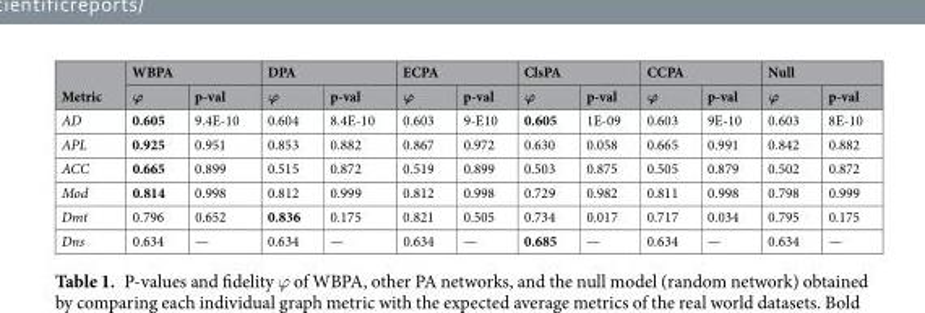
<table><thead><tr><td rowspan="2">Metric</td><td colspan="2">WBPA</td><td colspan="2">DPA</td><td colspan="2">ECPA</td><td colspan="2">ClsPA</td><td colspan="2">CCPA</td><td colspan="2">Null</td></tr><tr><td>ϕ</td><td>p-val</td><td>ϕ</td><td>p-val</td><td>ϕ</td><td>p-val</td><td>ϕ</td><td>p-val</td><td>ϕ</td><td>p-val</td><td>ϕ</td><td>p-val</td></tr></thead><tbody><tr><td>AD</td><td>0.605</td><td>9.4E-10</td><td>0.604</td><td>8.4E-10</td><td>0.603</td><td>9-E10</td><td>0.605</td><td>1E-09</td><td>0.603</td><td>9E-10</td><td>0.603</td><td>8E-10</td></tr><tr><td>APL</td><td>0.925</td><td>0.951</td><td>0.853</td><td>0.882</td><td>0.867</td><td>0.972</td><td>0.630</td><td>0.058</td><td>0.665</td><td>0.991</td><td>0.842</td><td>0.882</td></tr><tr><td>ACC</td><td>0.665</td><td>0.899</td><td>0.515</td><td>0.872</td><td>0.519</td><td>0.899</td><td>0.503</td><td>0.875</td><td>0.505</td><td>0.879</td><td>0.502</td><td>0.872</td></tr><tr><td>Mod</td><td>0.814</td><td>0.998</td><td>0.812</td><td>0.999</td><td>0.812</td><td>0.998</td><td>0.729</td><td>0.982</td><td>0.811</td><td>0.998</td><td>0.798</td><td>0.999</td></tr><tr><td>Dmt</td><td>0.796</td><td>0.652</td><td>0.836</td><td>0.175</td><td>0.821</td><td>0.505</td><td>0.734</td><td>0.017</td><td>0.717</td><td>0.034</td><td>0.795</td><td>0.175</td></tr><tr><td>Dns</td><td>0.634</td><td>—</td><td>0.634</td><td>—</td><td>0.634</td><td>—</td><td>0.685</td><td>—</td><td>0.634</td><td>—</td><td>0.634</td><td>—</td></tr></tbody></table>